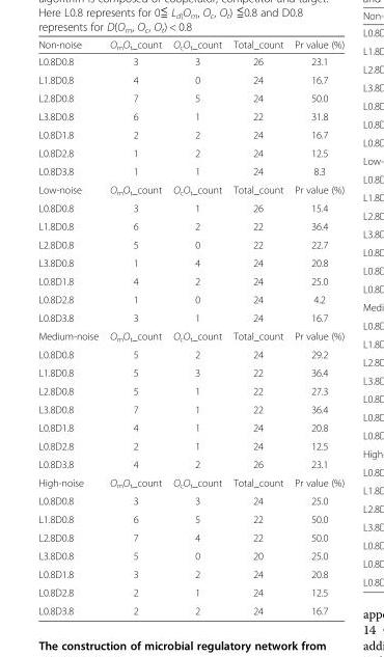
<table><thead><tr><td>Non-noise</td><td>OmOt_count</td><td>OcOt_count</td><td>Total_count</td><td>Pr value (%)</td></tr></thead><tbody><tr><td>L0.8D0.8</td><td>3</td><td>3</td><td>26</td><td>23.1</td></tr><tr><td>L1.8D0.8</td><td>4</td><td>0</td><td>24</td><td>16.7</td></tr><tr><td>L2.8D0.8</td><td>7</td><td>5</td><td>24</td><td>50.0</td></tr><tr><td>L3.8D0.8</td><td>6</td><td>1</td><td>22</td><td>31.8</td></tr><tr><td>L0.8D1.8</td><td>2</td><td>2</td><td>24</td><td>16.7</td></tr><tr><td>L0.8D2.8</td><td>1</td><td>2</td><td>24</td><td>12.5</td></tr><tr><td>L0.8D3.8</td><td>1</td><td>1</td><td>24</td><td>8.3</td></tr><tr><td>Low-noise</td><td>OmOt_count</td><td>OcOt_count</td><td>Total_count</td><td>Pr value (%)</td></tr><tr><td>L0.8D0.8</td><td>3</td><td>1</td><td>26</td><td>15.4</td></tr><tr><td>L1.8D0.8</td><td>6</td><td>2</td><td>22</td><td>36.4</td></tr><tr><td>L2.8D0.8</td><td>5</td><td>0</td><td>22</td><td>22.7</td></tr><tr><td>L3.8D0.8</td><td>1</td><td>4</td><td>24</td><td>20.8</td></tr><tr><td>L0.8D1.8</td><td>4</td><td>2</td><td>24</td><td>25.0</td></tr><tr><td>L0.8D2.8</td><td>1</td><td>0</td><td>24</td><td>4.2</td></tr><tr><td>L0.8D3.8</td><td>3</td><td>1</td><td>24</td><td>16.7</td></tr><tr><td>Medium-noise</td><td>OmOt_count</td><td>OcOt_count</td><td>Total_count</td><td>Pr value (%)</td></tr><tr><td>L0.8D0.8</td><td>5</td><td>2</td><td>24</td><td>29.2</td></tr><tr><td>L1.8D0.8</td><td>5</td><td>3</td><td>22</td><td>36.4</td></tr><tr><td>L2.8D0.8</td><td>5</td><td>1</td><td>22</td><td>27.3</td></tr><tr><td>L3.8D0.8</td><td>7</td><td>1</td><td>22</td><td>36.4</td></tr><tr><td>L0.8D1.8</td><td>4</td><td>1</td><td>24</td><td>20.8</td></tr><tr><td>L0.8D2.8</td><td>2</td><td>1</td><td>24</td><td>12.5</td></tr><tr><td>L0.8D3.8</td><td>4</td><td>2</td><td>26</td><td>23.1</td></tr><tr><td>High-noise</td><td>OmOt_count</td><td>OcOt_count</td><td>Total_count</td><td>Pr value (%)</td></tr><tr><td>L0.8D0.8</td><td>3</td><td>3</td><td>24</td><td>25.0</td></tr><tr><td>L1.8D0.8</td><td>6</td><td>5</td><td>22</td><td>50.0</td></tr><tr><td>L2.8D0.8</td><td>7</td><td>4</td><td>22</td><td>50.0</td></tr><tr><td>L3.8D0.8</td><td>5</td><td>0</td><td>20</td><td>25.0</td></tr><tr><td>L0.8D1.8</td><td>3</td><td>2</td><td>24</td><td>20.8</td></tr><tr><td>L0.8D2.8</td><td>2</td><td>1</td><td>24</td><td>12.5</td></tr><tr><td>L0.8D3.8</td><td>2</td><td>2</td><td>24</td><td>16.7</td></tr></tbody></table>